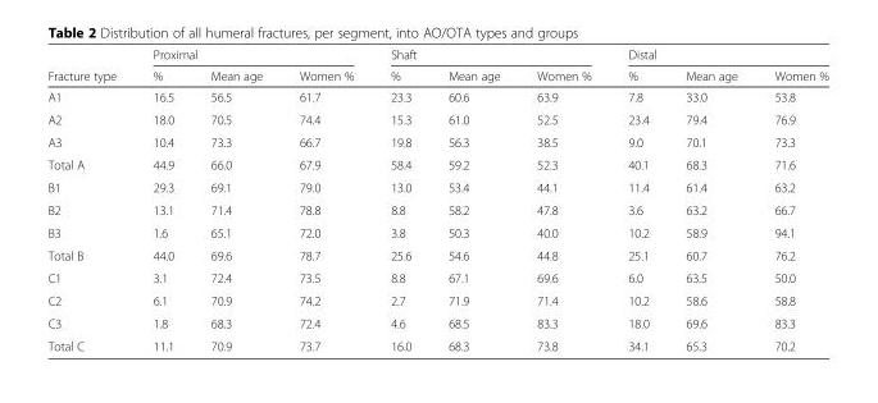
<table><thead><tr><td rowspan="2">Fracture type</td><td colspan="3">Proximal</td><td colspan="3">Shaft</td><td colspan="3">Distal</td></tr><tr><td>%</td><td>Mean age</td><td>Women %</td><td>%</td><td>Mean age</td><td>Women %</td><td>%</td><td>Mean age</td><td>Women %</td></tr></thead><tbody><tr><td>A1</td><td>16.5</td><td>56.5</td><td>61.7</td><td>23.3</td><td>60.6</td><td>63.9</td><td>7.8</td><td>33.0</td><td>53.8</td></tr><tr><td>A2</td><td>18.0</td><td>70.5</td><td>74.4</td><td>15.3</td><td>61.0</td><td>52.5</td><td>23.4</td><td>79.4</td><td>76.9</td></tr><tr><td>A3</td><td>10.4</td><td>73.3</td><td>66.7</td><td>19.8</td><td>56.3</td><td>38.5</td><td>9.0</td><td>70.1</td><td>73.3</td></tr><tr><td>Total A</td><td>44.9</td><td>66.0</td><td>67.9</td><td>58.4</td><td>59.2</td><td>52.3</td><td>40.1</td><td>68.3</td><td>71.6</td></tr><tr><td>B1</td><td>29.3</td><td>69.1</td><td>79.0</td><td>13.0</td><td>53.4</td><td>44.1</td><td>11.4</td><td>61.4</td><td>63.2</td></tr><tr><td>B2</td><td>13.1</td><td>71.4</td><td>78.8</td><td>8.8</td><td>58.2</td><td>47.8</td><td>3.6</td><td>63.2</td><td>66.7</td></tr><tr><td>B3</td><td>1.6</td><td>65.1</td><td>72.0</td><td>3.8</td><td>50.3</td><td>40.0</td><td>10.2</td><td>58.9</td><td>94.1</td></tr><tr><td>Total B</td><td>44.0</td><td>69.6</td><td>78.7</td><td>25.6</td><td>54.6</td><td>44.8</td><td>25.1</td><td>60.7</td><td>76.2</td></tr><tr><td>C1</td><td>3.1</td><td>72.4</td><td>73.5</td><td>8.8</td><td>67.1</td><td>69.6</td><td>6.0</td><td>63.5</td><td>50.0</td></tr><tr><td>C2</td><td>6.1</td><td>70.9</td><td>74.2</td><td>2.7</td><td>71.9</td><td>71.4</td><td>10.2</td><td>58.6</td><td>58.8</td></tr><tr><td>C3</td><td>1.8</td><td>68.3</td><td>72.4</td><td>4.6</td><td>68.5</td><td>83.3</td><td>18.0</td><td>69.6</td><td>83.3</td></tr><tr><td>Total C</td><td>11.1</td><td>70.9</td><td>73.7</td><td>16.0</td><td>68.3</td><td>73.8</td><td>34.1</td><td>65.3</td><td>70.2</td></tr></tbody></table>